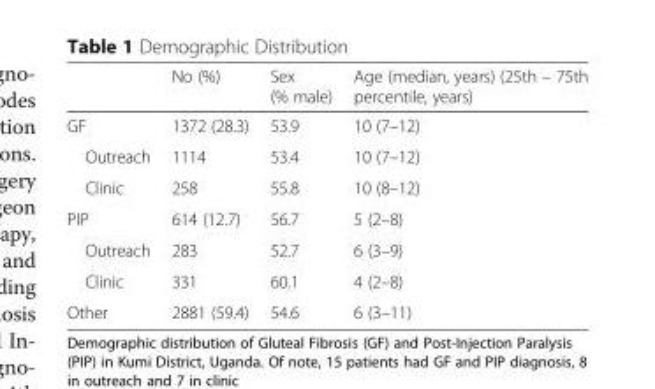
<table><thead><tr><td></td><td>No (%)</td><td>Sex (% male)</td><td>Age (median, years) (25th – 75th percentile, years)</td></tr></thead><tbody><tr><td>GF</td><td>1372 (28.3)</td><td>53.9</td><td>10 (7–12)</td></tr><tr><td>Outreach</td><td>1114</td><td>53.4</td><td>10 (7–12)</td></tr><tr><td>Clinic</td><td>258</td><td>55.8</td><td>10 (8–12)</td></tr><tr><td>PIP</td><td>614 (12.7)</td><td>56.7</td><td>5 (2–8)</td></tr><tr><td>Outreach</td><td>283</td><td>52.7</td><td>6 (3–9)</td></tr><tr><td>Clinic</td><td>331</td><td>60.1</td><td>4 (2–8)</td></tr><tr><td>Other</td><td>2881 (59.4)</td><td>54.6</td><td>6 (3–11)</td></tr></tbody></table>